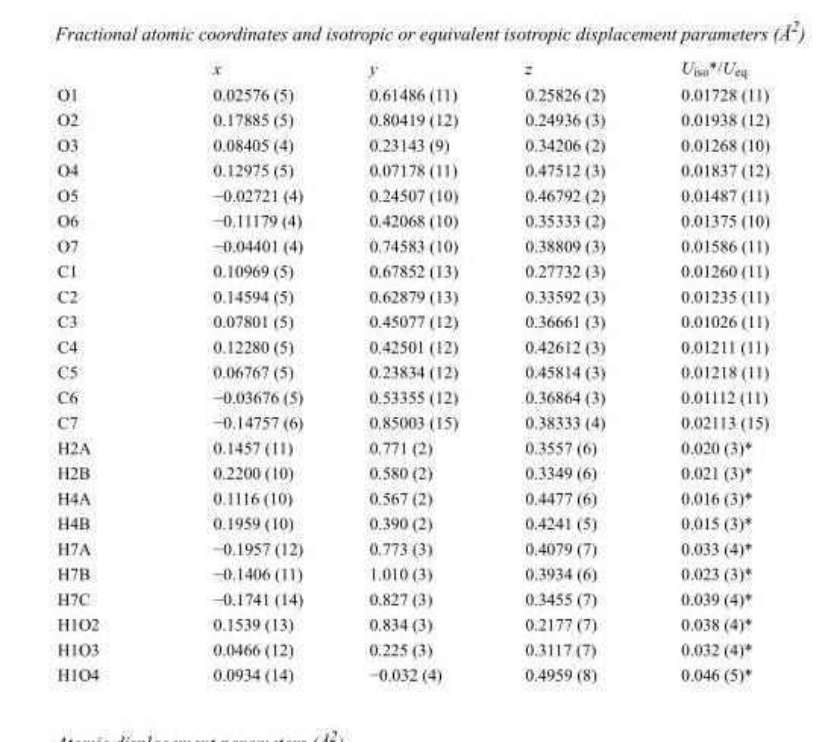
<table><thead><tr><td></td><td>x</td><td>y</td><td>z</td><td>U<sub>iso</sub>*/U<sub>eq</sub></td></tr></thead><tbody><tr><td>O1</td><td>0.02576 (5)</td><td>0.61486 (11)</td><td>0.25826 (2)</td><td>0.01728 (11)</td></tr><tr><td>O2</td><td>0.17885 (5)</td><td>0.80419 (12)</td><td>0.24936 (3)</td><td>0.01938 (12)</td></tr><tr><td>O3</td><td>0.08405 (4)</td><td>0.23143 (9)</td><td>0.34206 (2)</td><td>0.01268 (10)</td></tr><tr><td>O4</td><td>0.12975 (5)</td><td>0.07178 (11)</td><td>0.47512 (3)</td><td>0.01837 (12)</td></tr><tr><td>O5</td><td>−0.02721 (4)</td><td>0.24507 (10)</td><td>0.46792 (2)</td><td>0.01487 (11)</td></tr><tr><td>O6</td><td>−0.11179 (4)</td><td>0.42068 (10)</td><td>0.35333 (2)</td><td>0.01375 (10)</td></tr><tr><td>O7</td><td>−0.04401 (4)</td><td>0.74583 (10)</td><td>0.38809 (3)</td><td>0.01586 (11)</td></tr><tr><td>C1</td><td>0.10969 (5)</td><td>0.67852 (13)</td><td>0.27732 (3)</td><td>0.01260 (11)</td></tr><tr><td>C2</td><td>0.14594 (5)</td><td>0.62879 (13)</td><td>0.33592 (3)</td><td>0.01235 (11)</td></tr><tr><td>C3</td><td>0.07801 (5)</td><td>0.45077 (12)</td><td>0.36661 (3)</td><td>0.01026 (11)</td></tr><tr><td>C4</td><td>0.12280 (5)</td><td>0.42501 (12)</td><td>0.42612 (3)</td><td>0.01211 (11)</td></tr><tr><td>C5</td><td>0.06767 (5)</td><td>0.23834 (12)</td><td>0.45814 (3)</td><td>0.01218 (11)</td></tr><tr><td>C6</td><td>−0.03676 (5)</td><td>0.53355 (12)</td><td>0.36864 (3)</td><td>0.01112 (11)</td></tr><tr><td>C7</td><td>−0.14757 (6)</td><td>0.85003 (15)</td><td>0.38333 (4)</td><td>0.02113 (15)</td></tr><tr><td>H2A</td><td>0.1457 (11)</td><td>0.771 (2)</td><td>0.3557 (6)</td><td>0.020 (3)*</td></tr><tr><td>H2B</td><td>0.2200 (10)</td><td>0.580 (2)</td><td>0.3349 (6)</td><td>0.021 (3)*</td></tr><tr><td>H4A</td><td>0.1116 (10)</td><td>0.567 (2)</td><td>0.4477 (6)</td><td>0.016 (3)*</td></tr><tr><td>H4B</td><td>0.1959 (10)</td><td>0.390 (2)</td><td>0.4241 (5)</td><td>0.015 (3)*</td></tr><tr><td>H7A</td><td>−0.1957 (12)</td><td>0.773 (3)</td><td>0.4079 (7)</td><td>0.033 (4)*</td></tr><tr><td>H7B</td><td>−0.1406 (11)</td><td>1.010 (3)</td><td>0.3934 (6)</td><td>0.023 (3)*</td></tr><tr><td>H7C</td><td>−0.1741 (14)</td><td>0.827 (3)</td><td>0.3455 (7)</td><td>0.039 (4)*</td></tr><tr><td>H1O2</td><td>0.1539 (13)</td><td>0.834 (3)</td><td>0.2177 (7)</td><td>0.038 (4)*</td></tr><tr><td>H1O3</td><td>0.0466 (12)</td><td>0.225 (3)</td><td>0.3117 (7)</td><td>0.032 (4)*</td></tr><tr><td>H1O4</td><td>0.0934 (14)</td><td>−0.032 (4)</td><td>0.4959 (8)</td><td>0.046 (5)*</td></tr></tbody></table>